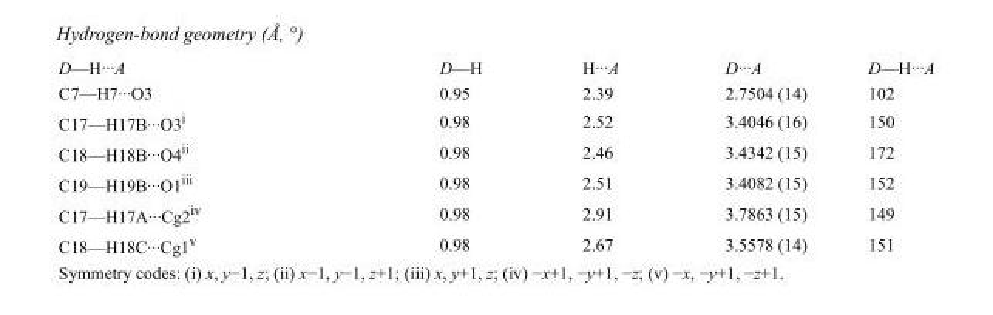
<table><tbody><tr><td>D—H···A</td><td>D—H</td><td>H···A</td><td>D···A</td><td>D—H···A</td></tr><tr><td>C7—H7···O3</td><td>0.95</td><td>2.39</td><td>2.7504 (14)</td><td>102</td></tr><tr><td>C17—H17B···O3<sup>i</sup></td><td>0.98</td><td>2.52</td><td>3.4046 (16)</td><td>150</td></tr><tr><td>C18—H18B···O4<sup>ii</sup></td><td>0.98</td><td>2.46</td><td>3.4342 (15)</td><td>172</td></tr><tr><td>C19—H19B···O1<sup>iii</sup></td><td>0.98</td><td>2.51</td><td>3.4082 (15)</td><td>152</td></tr><tr><td>C17—H17A···Cg2<sup>iv</sup></td><td>0.98</td><td>2.91</td><td>3.7863 (15)</td><td>149</td></tr><tr><td>C18—H18C···Cg1<sup>v</sup></td><td>0.98</td><td>2.67</td><td>3.5578 (14)</td><td>151</td></tr></tbody></table>